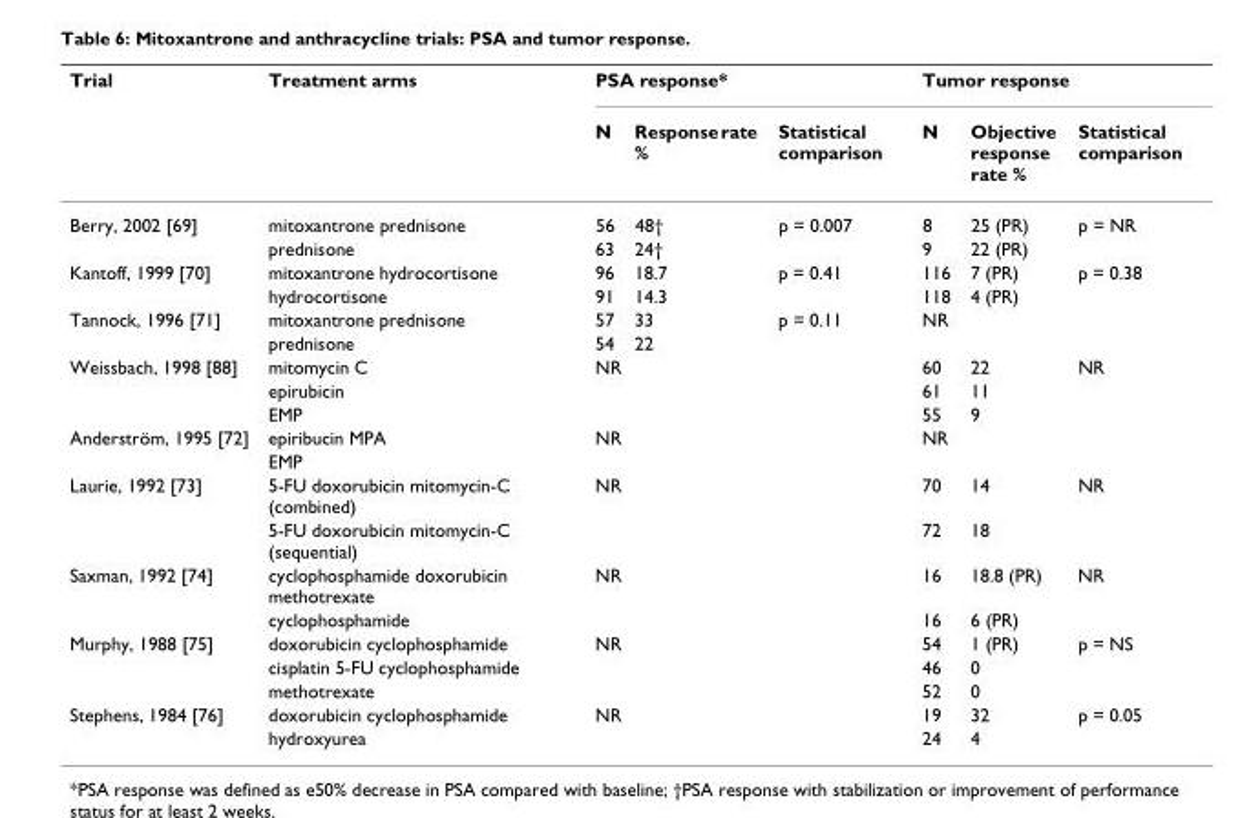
<table><thead><tr><td rowspan="2">Trial</td><td rowspan="2">Treatment arms</td><td colspan="3">PSA response*</td><td colspan="3">Tumor response</td></tr><tr><td>N</td><td>Response rate %</td><td>Statistical comparison</td><td>N</td><td>Objective response rate %</td><td>Statistical comparison</td></tr></thead><tbody><tr><td rowspan="2">Berry, 2002 [69]</td><td>mitoxantrone prednisone</td><td>56</td><td>48†</td><td>p = 0.007</td><td>8</td><td>25 (PR)</td><td>p = NR</td></tr><tr><td>prednisone</td><td>63</td><td>24†</td><td></td><td>9</td><td>22 (PR)</td><td></td></tr><tr><td rowspan="2">Kantoff, 1999 [70]</td><td>mitoxantrone hydrocortisone</td><td>96</td><td>18.7</td><td>p = 0.41</td><td>116</td><td>7 (PR)</td><td>p = 0.38</td></tr><tr><td>hydrocortisone</td><td>91</td><td>14.3</td><td></td><td>118</td><td>4 (PR)</td><td></td></tr><tr><td rowspan="2">Tannock, 1996 [71]</td><td>mitoxantrone prednisone</td><td>57</td><td>33</td><td>p = 0.11</td><td colspan="3">NR</td></tr><tr><td>prednisone</td><td>54</td><td>22</td><td></td><td></td><td></td><td></td></tr><tr><td rowspan="3">Weissbach, 1998 [88]</td><td>mitomycin C</td><td colspan="3">NR</td><td>60</td><td>22</td><td>NR</td></tr><tr><td>epirubicin</td><td></td><td></td><td></td><td>61</td><td>11</td><td></td></tr><tr><td>EMP</td><td></td><td></td><td></td><td>55</td><td>9</td><td></td></tr><tr><td rowspan="2">Anderström, 1995 [72]</td><td>epiribucin MPA</td><td colspan="3">NR</td><td colspan="3">NR</td></tr><tr><td>EMP</td><td></td><td></td><td></td><td></td><td></td><td></td></tr><tr><td rowspan="2">Laurie, 1992 [73]</td><td>5-FU doxorubicin mitomycin-C (combined)</td><td colspan="3">NR</td><td>70</td><td>14</td><td>NR</td></tr><tr><td>5-FU doxorubicin mitomycin-C (sequential)</td><td></td><td></td><td></td><td>72</td><td>18</td><td></td></tr><tr><td rowspan="2">Saxman, 1992 [74]</td><td>cyclophosphamide doxorubicin methotrexate</td><td colspan="3">NR</td><td>16</td><td>18.8 (PR)</td><td>NR</td></tr><tr><td>cyclophosphamide</td><td></td><td></td><td></td><td>16</td><td>6 (PR)</td><td></td></tr><tr><td rowspan="3">Murphy, 1988 [75]</td><td>doxorubicin cyclophosphamide</td><td colspan="3">NR</td><td>54</td><td>1 (PR)</td><td>p = NS</td></tr><tr><td>cisplatin 5-FU cyclophosphamide</td><td></td><td></td><td></td><td>46</td><td>0</td><td></td></tr><tr><td>methotrexate</td><td></td><td></td><td></td><td>52</td><td>0</td><td></td></tr><tr><td rowspan="2">Stephens, 1984 [76]</td><td>doxorubicin cyclophosphamide</td><td colspan="3">NR</td><td>19</td><td>32</td><td>p = 0.05</td></tr><tr><td>hydroxyurea</td><td></td><td></td><td></td><td>24</td><td>4</td><td></td></tr></tbody></table>